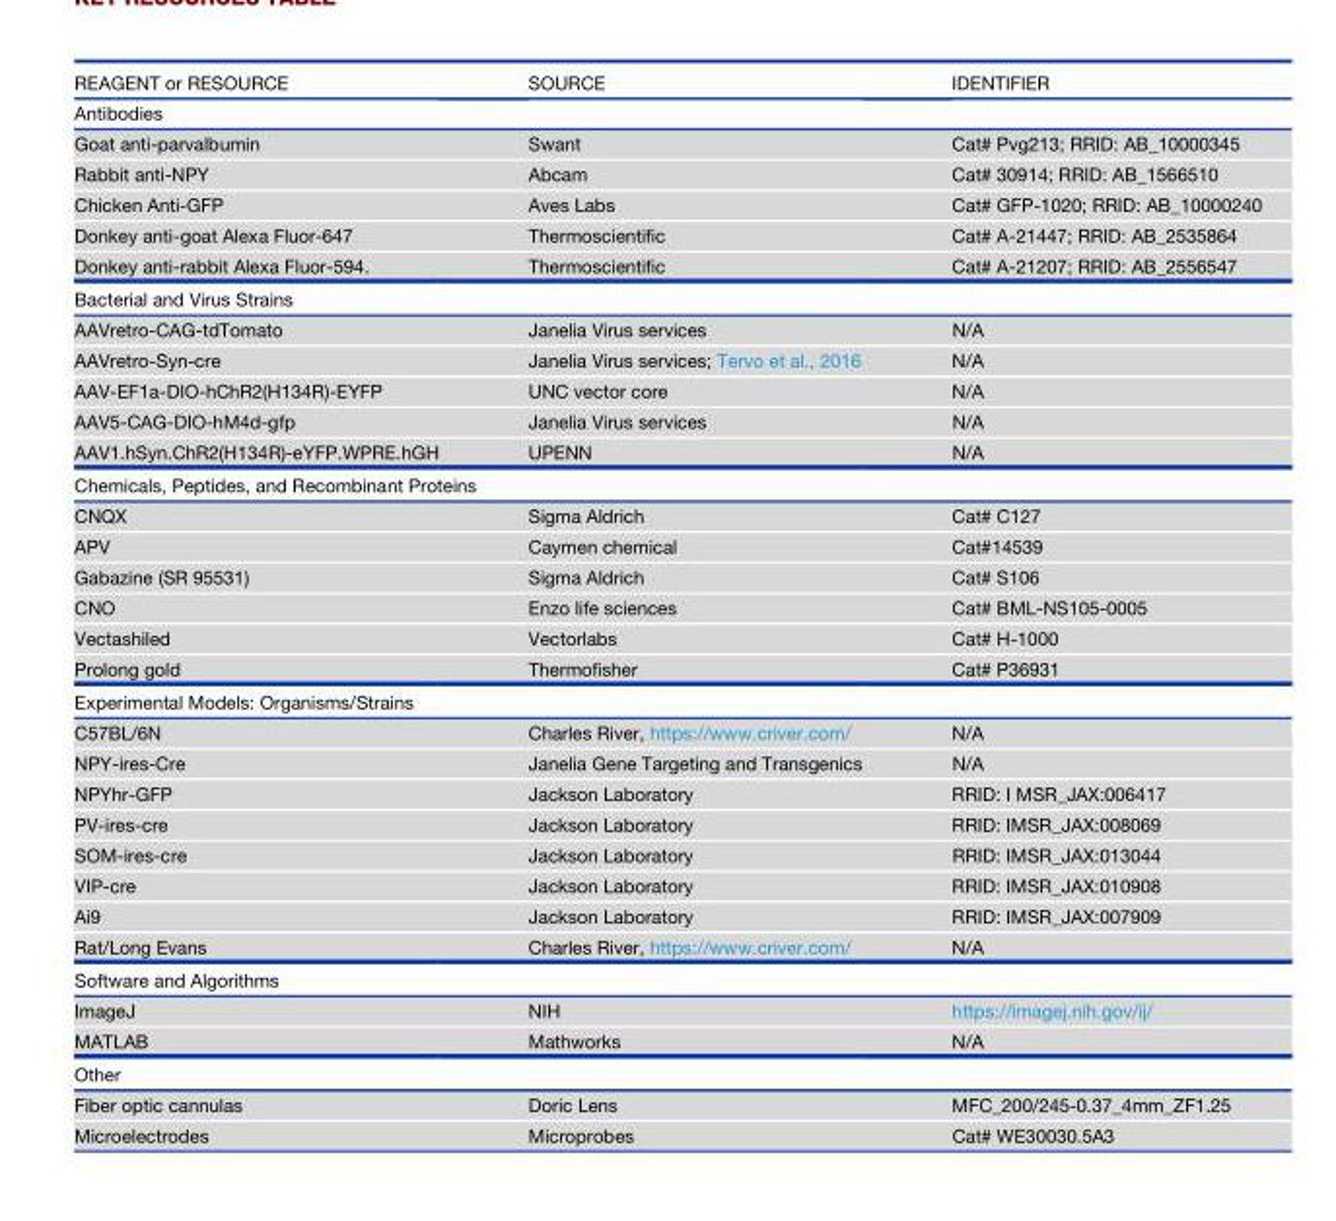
<table><thead><tr><td>REAGENT or RESOURCE</td><td>SOURCE</td><td>IDENTIFIER</td></tr></thead><tbody><tr><td colspan="3">Antibodies</td></tr><tr><td>Goat anti-parvalbumin</td><td>Swant</td><td>Cat# Pvg213; RRID: AB_10000345</td></tr><tr><td>Rabbit anti-NPY</td><td>Abcam</td><td>Cat# 30914; RRID: AB_1566510</td></tr><tr><td>Chicken Anti-GFP</td><td>Aves Labs</td><td>Cat# GFP-1020; RRID: AB_10000240</td></tr><tr><td>Donkey anti-goat Alexa Fluor-647</td><td>Thermoscientific</td><td>Cat# A-21447; RRID: AB_2535864</td></tr><tr><td>Donkey anti-rabbit Alexa Fluor-594.</td><td>Thermoscientific</td><td>Cat# A-21207; RRID: AB_2556547</td></tr><tr><td colspan="3">Bacterial and Virus Strains</td></tr><tr><td>AAVretro-CAG-tdTomato</td><td>Janelia Virus services</td><td>N/A</td></tr><tr><td>AAVretro-Syn-cre</td><td>Janelia Virus services; Tervo et al., 2016</td><td>N/A</td></tr><tr><td>AAV-EF1a-DIO-hChR2(H134R)-EYFP</td><td>UNC vector core</td><td>N/A</td></tr><tr><td>AAV5-CAG-DIO-hM4d-gfp</td><td>Janelia Virus services</td><td>N/A</td></tr><tr><td>AAV1.hSyn.ChR2(H134R)-eYFP.WPRE.hGH</td><td>UPENN</td><td>N/A</td></tr><tr><td colspan="3">Chemicals, Peptides, and Recombinant Proteins</td></tr><tr><td>CNQX</td><td>Sigma Aldrich</td><td>Cat# C127</td></tr><tr><td>APV</td><td>Caymen chemical</td><td>Cat#14539</td></tr><tr><td>Gabazine (SR 95531)</td><td>Sigma Aldrich</td><td>Cat# S106</td></tr><tr><td>CNO</td><td>Enzo life sciences</td><td>Cat# BML-NS105-0005</td></tr><tr><td>Vectashiled</td><td>Vectorlabs</td><td>Cat# H-1000</td></tr><tr><td>Prolong gold</td><td>Thermofisher</td><td>Cat# P36931</td></tr><tr><td colspan="3">Experimental Models: Organisms/Strains</td></tr><tr><td>C57BL/6N</td><td>Charles River, https://www.criver.com/</td><td>N/A</td></tr><tr><td>NPY-ires-Cre</td><td>Janelia Gene Targeting and Transgenics</td><td>N/A</td></tr><tr><td>NPYhr-GFP</td><td>Jackson Laboratory</td><td>RRID: I MSR_JAX:006417</td></tr><tr><td>PV-ires-cre</td><td>Jackson Laboratory</td><td>RRID: IMSR_JAX:008069</td></tr><tr><td>SOM-ires-cre</td><td>Jackson Laboratory</td><td>RRID: IMSR_JAX:013044</td></tr><tr><td>VIP-cre</td><td>Jackson Laboratory</td><td>RRID: IMSR_JAX:010908</td></tr><tr><td>Ai9</td><td>Jackson Laboratory</td><td>RRID: IMSR_JAX:007909</td></tr><tr><td>Rat/Long Evans</td><td>Charles River, https://www.criver.com/</td><td>N/A</td></tr><tr><td colspan="3">Software and Algorithms</td></tr><tr><td>ImageJ</td><td>NIH</td><td>https://imagej.nih.gov/ij/</td></tr><tr><td>MATLAB</td><td>Mathworks</td><td>N/A</td></tr><tr><td colspan="3">Other</td></tr><tr><td>Fiber optic cannulas</td><td>Doric Lens</td><td>MFC_200/245-0.37_4mm_ZF1.25</td></tr><tr><td>Microelectrodes</td><td>Microprobes</td><td>Cat# WE30030.5A3</td></tr></tbody></table>